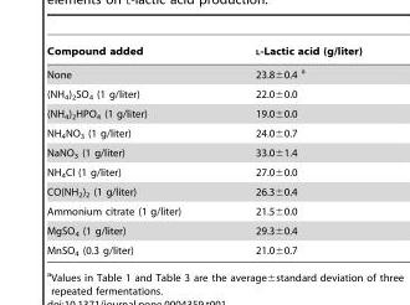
<table><thead><tr><td>Compound added</td><td>L-Lactic acid (g/liter)</td></tr></thead><tbody><tr><td>None</td><td>23.8±0.4 a</td></tr><tr><td>(NH<sub>4</sub>)<sub>2</sub>SO<sub>4</sub> (1 g/liter)</td><td>22.0±0.0</td></tr><tr><td>(NH<sub>4</sub>)<sub>2</sub>HPO<sub>4</sub> (1 g/liter)</td><td>19.0±0.0</td></tr><tr><td>NH<sub>4</sub>NO<sub>3</sub> (1 g/liter)</td><td>24.0±0.7</td></tr><tr><td>NaNO<sub>3</sub> (1 g/liter)</td><td>33.0±1.4</td></tr><tr><td>NH<sub>4</sub>Cl (1 g/liter)</td><td>27.0±0.0</td></tr><tr><td>CO(NH<sub>2</sub>)<sub>2</sub> (1 g/liter)</td><td>26.3±0.4</td></tr><tr><td>Ammonium citrate (1 g/liter)</td><td>21.5±0.0</td></tr><tr><td>MgSO<sub>4</sub> (1 g/liter)</td><td>29.3±0.4</td></tr><tr><td>MnSO<sub>4</sub> (0.3 g/liter)</td><td>21.0±0.7</td></tr></tbody></table>